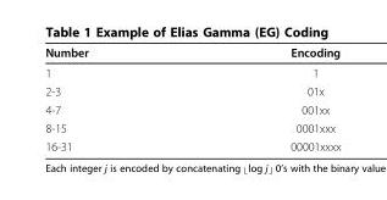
<table><thead><tr><td>Number</td><td>Encoding</td></tr></thead><tbody><tr><td>1</td><td>1</td></tr><tr><td>2-3</td><td>01x</td></tr><tr><td>4-7</td><td>001xx</td></tr><tr><td>8-15</td><td>0001xxx</td></tr><tr><td>16-31</td><td>00001xxxx</td></tr></tbody></table>